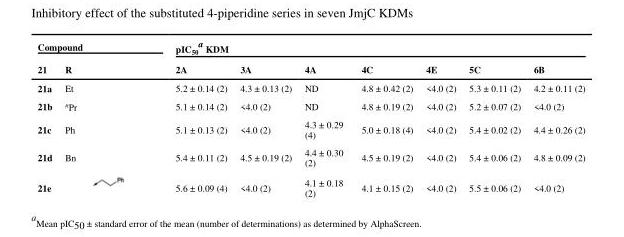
<table><thead><tr><td colspan="2">Compound</td><td colspan="7">pIC<sub>50</sub><sup>a</sup> KDM</td></tr><tr><td>21</td><td>R</td><td>2A</td><td>3A</td><td>4A</td><td>4C</td><td>4E</td><td>5C</td><td>6B</td></tr></thead><tbody><tr><td>21a</td><td>Et</td><td>5.2 ± 0.14 (2)</td><td>4.3 ± 0.13 (2)</td><td>ND</td><td>4.8 ± 0.42 (2)</td><td>&lt;4.0 (2)</td><td>5.3 ± 0.11 (2)</td><td>4.2 ± 0.11 (2)</td></tr><tr><td>21b</td><td><sup>n</sup>Pr</td><td>5.1 ± 0.14 (2)</td><td>&lt;4.0 (2)</td><td>ND</td><td>4.8 ± 0.19 (2)</td><td>&lt;4.0 (2)</td><td>5.2 ± 0.07 (2)</td><td>&lt;4.0 (2)</td></tr><tr><td>21c</td><td>Ph</td><td>5.1 ± 0.13 (2)</td><td>&lt;4.0 (2)</td><td>4.3 ± 0.29 (4)</td><td>5.0 ± 0.18 (4)</td><td>&lt;4.0 (2)</td><td>5.4 ± 0.02 (2)</td><td>4.4 ± 0.26 (2)</td></tr><tr><td>21d</td><td>Bn</td><td>5.4 ± 0.11 (2)</td><td>4.5 ± 0.19 (2)</td><td>4.4 ± 0.30 (2)</td><td>4.5 ± 0.19 (2)</td><td>&lt;4.0 (2)</td><td>5.4 ± 0.06 (2)</td><td>4.8 ± 0.09 (2)</td></tr><tr><td>21e</td><td></td><td>5.6 ± 0.09 (4)</td><td>&lt;4.0 (2)</td><td>4.1 ± 0.18 (2)</td><td>4.1 ± 0.15 (2)</td><td>&lt;4.0 (2)</td><td>5.5 ± 0.06 (2)</td><td>&lt;4.0 (2)</td></tr></tbody></table>